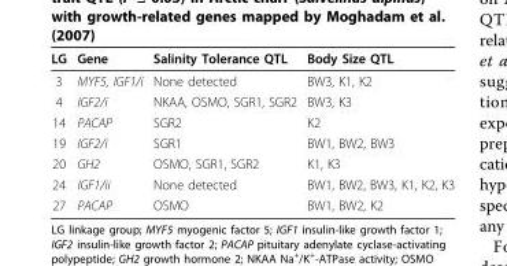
<table><thead><tr><td>LG</td><td>Gene</td><td>Salinity Tolerance QTL</td><td>Body Size QTL</td></tr></thead><tbody><tr><td>3</td><td>MYF5, IGF1/i</td><td>None detected</td><td>BW3, K1, K2</td></tr><tr><td>4</td><td>IGF2/i</td><td>NKAA, OSMO, SGR1, SGR2</td><td>BW3, K3</td></tr><tr><td>14</td><td>PACAP</td><td>SGR2</td><td>K2</td></tr><tr><td>19</td><td>IGF2/i</td><td>SGR1</td><td>BW1, BW2, BW3</td></tr><tr><td>20</td><td>GH2</td><td>OSMO, SGR1, SGR2</td><td>K1, K3</td></tr><tr><td>24</td><td>IGF1/ii</td><td>None detected</td><td>BW1, BW2, BW3, K1, K2, K3</td></tr><tr><td>27</td><td>PACAP</td><td>OSMO</td><td>BW1, BW2, K2</td></tr></tbody></table>